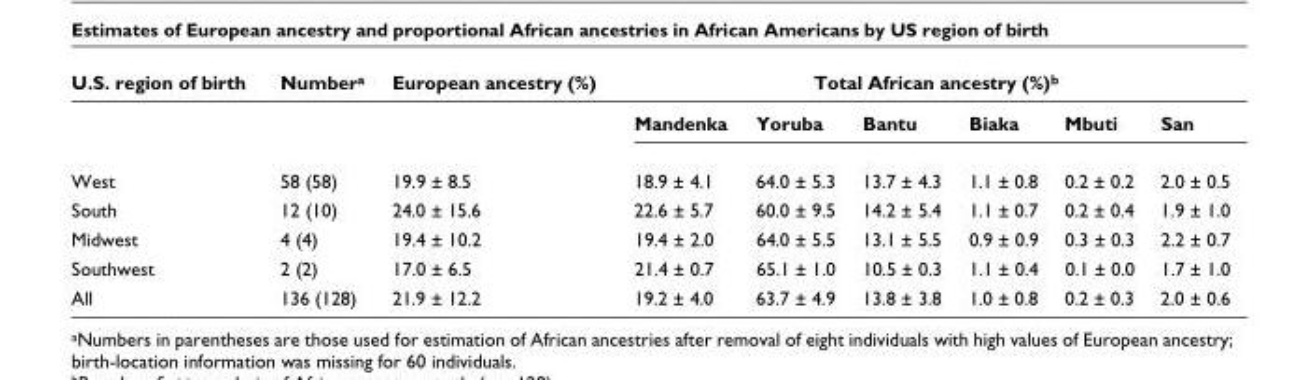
<table><thead><tr><td rowspan="2">U.S. region of birth</td><td rowspan="2">Number<sup>a</sup></td><td rowspan="2">European ancestry (%)</td><td colspan="6">Total African ancestry (%)<sup>b</sup></td></tr><tr><td>Mandenka</td><td>Yoruba</td><td>Bantu</td><td>Biaka</td><td>Mbuti</td><td>San</td></tr></thead><tbody><tr><td>West</td><td>58 (58)</td><td>19.9 ± 8.5</td><td>18.9 ± 4.1</td><td>64.0 ± 5.3</td><td>13.7 ± 4.3</td><td>1.1 ± 0.8</td><td>0.2 ± 0.2</td><td>2.0 ± 0.5</td></tr><tr><td>South</td><td>12 (10)</td><td>24.0 ± 15.6</td><td>22.6 ± 5.7</td><td>60.0 ± 9.5</td><td>14.2 ± 5.4</td><td>1.1 ± 0.7</td><td>0.2 ± 0.4</td><td>1.9 ± 1.0</td></tr><tr><td>Midwest</td><td>4 (4)</td><td>19.4 ± 10.2</td><td>19.4 ± 2.0</td><td>64.0 ± 5.5</td><td>13.1 ± 5.5</td><td>0.9 ± 0.9</td><td>0.3 ± 0.3</td><td>2.2 ± 0.7</td></tr><tr><td>Southwest</td><td>2 (2)</td><td>17.0 ± 6.5</td><td>21.4 ± 0.7</td><td>65.1 ± 1.0</td><td>10.5 ± 0.3</td><td>1.1 ± 0.4</td><td>0.1 ± 0.0</td><td>1.7 ± 1.0</td></tr><tr><td>All</td><td>136 (128)</td><td>21.9 ± 12.2</td><td>19.2 ± 4.0</td><td>63.7 ± 4.9</td><td>13.8 ± 3.8</td><td>1.0 ± 0.8</td><td>0.2 ± 0.3</td><td>2.0 ± 0.6</td></tr></tbody></table>